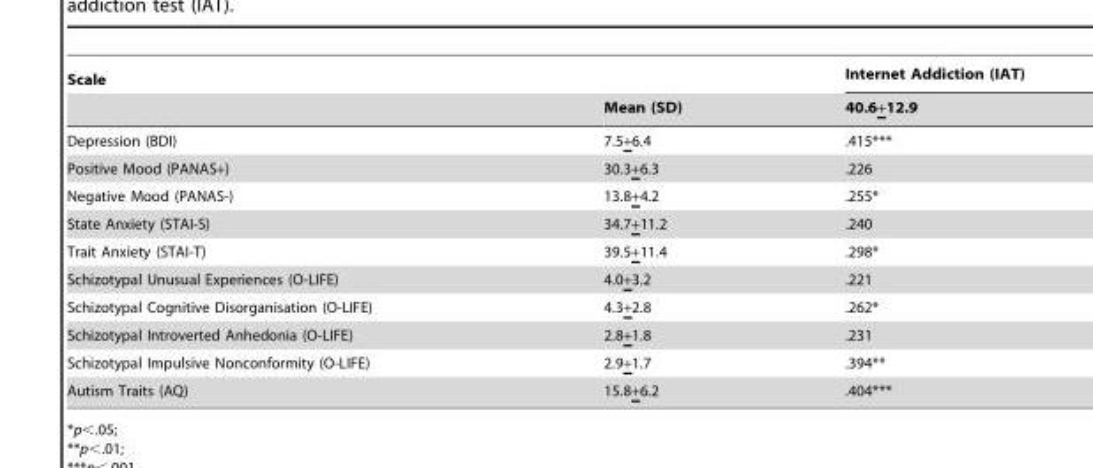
<table><thead><tr><td rowspan="2">Scale</td><td rowspan="2">Mean (SD)</td><td rowspan="2">Internet Addiction (IAT) 40.6+12.9</td></tr><tr></tr></thead><tbody><tr><td>Depression (BDI)</td><td>7.5+6.4</td><td>.415***</td></tr><tr><td>Positive Mood (PANAS+)</td><td>30.3+6.3</td><td>.226</td></tr><tr><td>Negative Mood (PANAS-)</td><td>13.8+4.2</td><td>.255*</td></tr><tr><td>State Anxiety (STAI-S)</td><td>34.7+11.2</td><td>.240</td></tr><tr><td>Trait Anxiety (STAI-T)</td><td>39.5+11.4</td><td>.298*</td></tr><tr><td>Schizotypal Unusual Experiences (O-LIFE)</td><td>4.0+3.2</td><td>.221</td></tr><tr><td>Schizotypal Cognitive Disorganisation (O-LIFE)</td><td>4.3+2.8</td><td>.262*</td></tr><tr><td>Schizotypal Introverted Anhedonia (O-LIFE)</td><td>2.8+1.8</td><td>.231</td></tr><tr><td>Schizotypal Impulsive Nonconformity (O-LIFE)</td><td>2.9+1.7</td><td>.394**</td></tr><tr><td>Autism Traits (AQ)</td><td>15.8+6.2</td><td>.404***</td></tr></tbody></table>